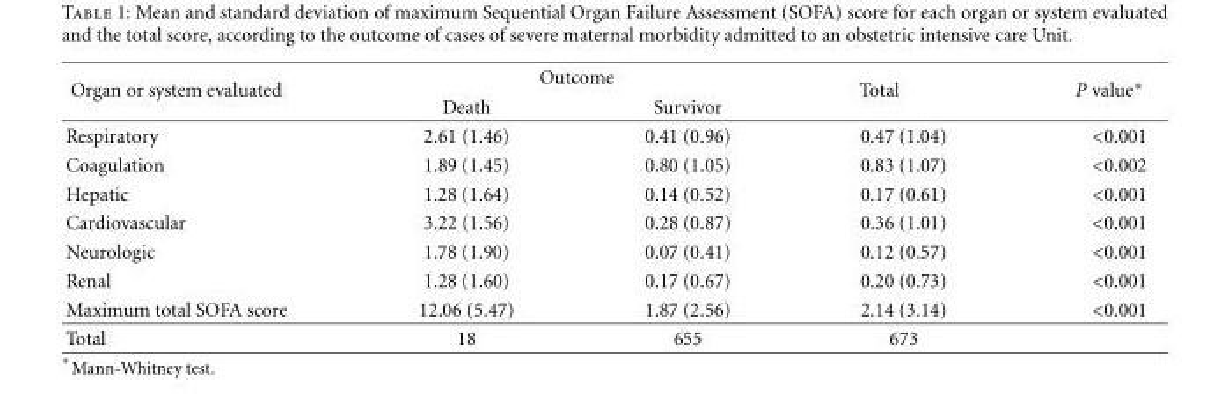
<table><thead><tr><td rowspan="2">Organ or system evaluated</td><td colspan="2">Outcome</td><td rowspan="2">Total</td><td rowspan="2">P value∗</td></tr><tr><td>Death</td><td>Survivor</td></tr></thead><tbody><tr><td>Respiratory</td><td>2.61 (1.46)</td><td>0.41 (0.96)</td><td>0.47 (1.04)</td><td>&lt;0.001</td></tr><tr><td>Coagulation</td><td>1.89 (1.45)</td><td>0.80 (1.05)</td><td>0.83 (1.07)</td><td>&lt;0.002</td></tr><tr><td>Hepatic</td><td>1.28 (1.64)</td><td>0.14 (0.52)</td><td>0.17 (0.61)</td><td>&lt;0.001</td></tr><tr><td>Cardiovascular</td><td>3.22 (1.56)</td><td>0.28 (0.87)</td><td>0.36 (1.01)</td><td>&lt;0.001</td></tr><tr><td>Neurologic</td><td>1.78 (1.90)</td><td>0.07 (0.41)</td><td>0.12 (0.57)</td><td>&lt;0.001</td></tr><tr><td>Renal</td><td>1.28 (1.60)</td><td>0.17 (0.67)</td><td>0.20 (0.73)</td><td>&lt;0.001</td></tr><tr><td>Maximum total SOFA score</td><td>12.06 (5.47)</td><td>1.87 (2.56)</td><td>2.14 (3.14)</td><td>&lt;0.001</td></tr><tr><td>Total</td><td>18</td><td>655</td><td>673</td><td></td></tr></tbody></table>